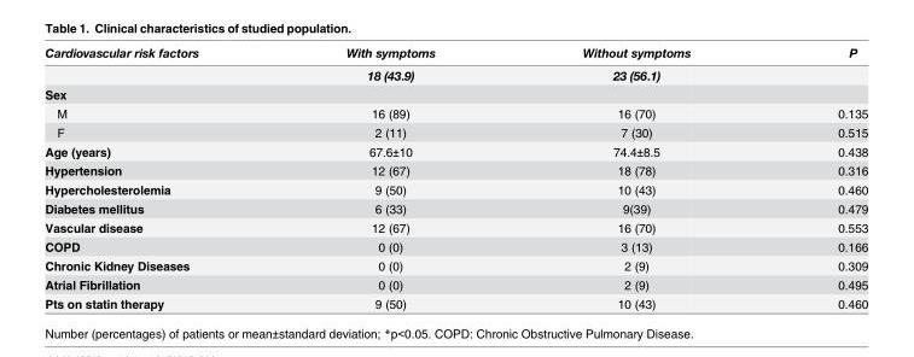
<table><thead><tr><td>Cardiovascular risk factors</td><td>With symptoms</td><td>Without symptoms</td><td>P</td></tr></thead><tbody><tr><td></td><td>18 (43.9)</td><td>23 (56.1)</td><td></td></tr><tr><td colspan="4">Sex</td></tr><tr><td>M</td><td>16 (89)</td><td>16 (70)</td><td>0.135</td></tr><tr><td>F</td><td>2 (11)</td><td>7 (30)</td><td>0.515</td></tr><tr><td>Age (years)</td><td>67.6±10</td><td>74.4±8.5</td><td>0.438</td></tr><tr><td>Hypertension</td><td>12 (67)</td><td>18 (78)</td><td>0.316</td></tr><tr><td>Hypercholesterolemia</td><td>9 (50)</td><td>10 (43)</td><td>0.460</td></tr><tr><td>Diabetes mellitus</td><td>6 (33)</td><td>9(39)</td><td>0.479</td></tr><tr><td>Vascular disease</td><td>12 (67)</td><td>16 (70)</td><td>0.553</td></tr><tr><td>COPD</td><td>0 (0)</td><td>3 (13)</td><td>0.166</td></tr><tr><td>Chronic Kidney Diseases</td><td>0 (0)</td><td>2 (9)</td><td>0.309</td></tr><tr><td>Atrial Fibrillation</td><td>0 (0)</td><td>2 (9)</td><td>0.495</td></tr><tr><td>Pts on statin therapy</td><td>9 (50)</td><td>10 (43)</td><td>0.460</td></tr></tbody></table>